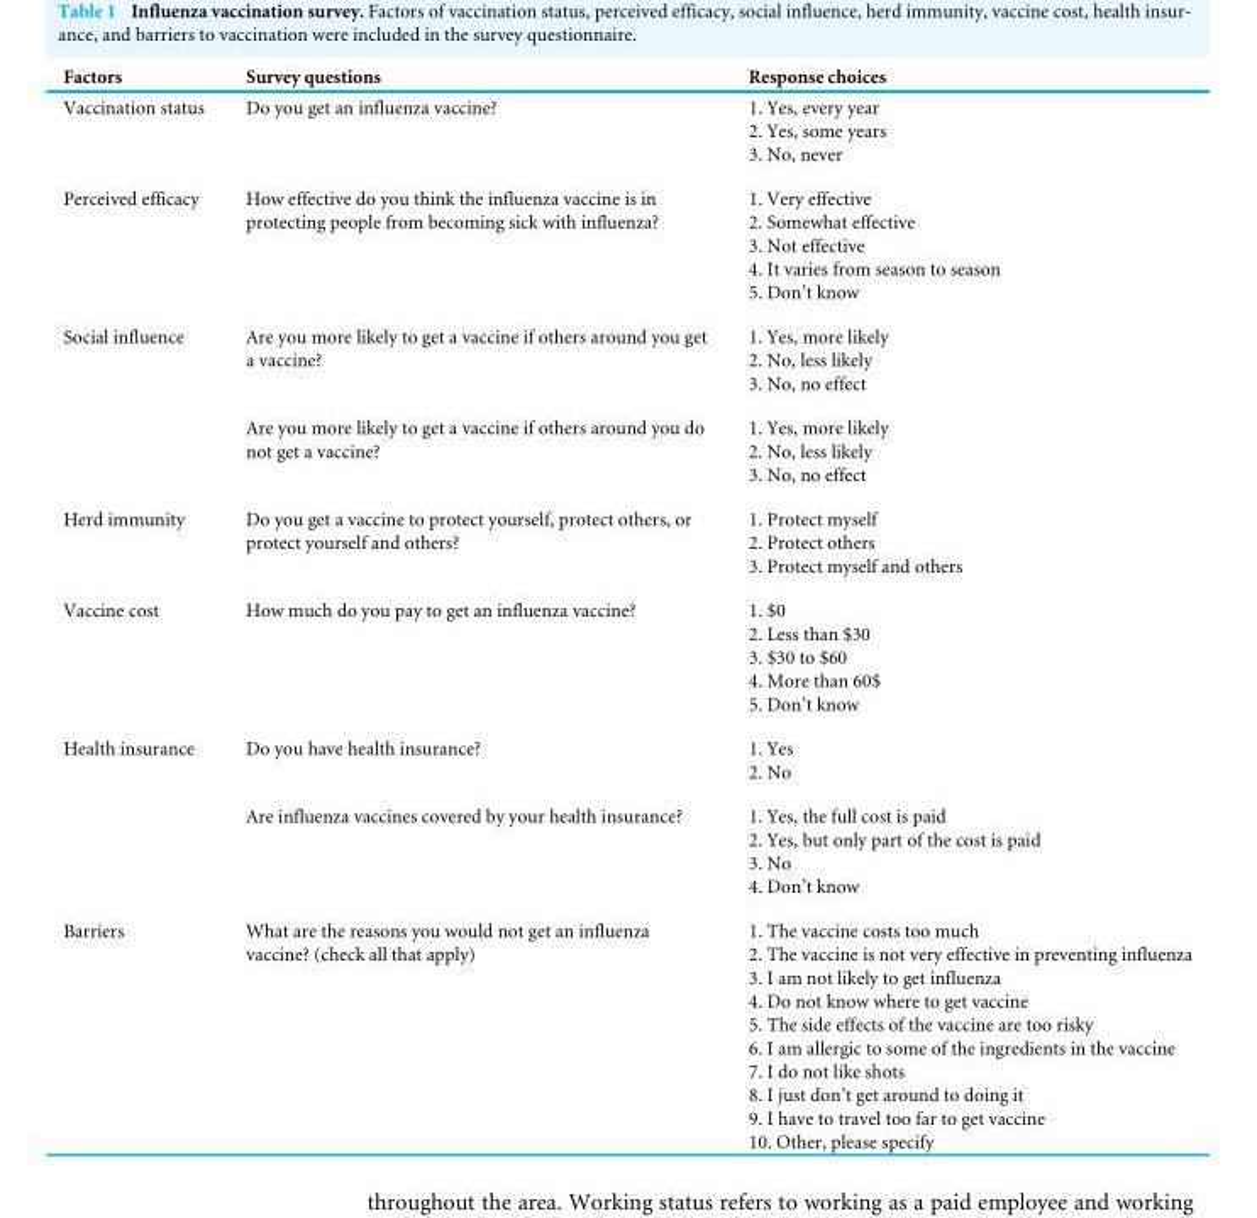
<table><thead><tr><td>Factors</td><td>Survey questions</td><td>Response choices</td></tr></thead><tbody><tr><td>Vaccination status</td><td>Do you get an influenza vaccine?</td><td>1. Yes, every year 2. Yes, some years 3. No, never</td></tr><tr><td>Perceived efficacy</td><td>How effective do you think the influenza vaccine is in protecting people from becoming sick with influenza?</td><td>1. Very effective 2. Somewhat effective 3. Not effective 4. It varies from season to season 5. Don’t know</td></tr><tr><td rowspan="2">Social influence</td><td>Are you more likely to get a vaccine if others around you get a vaccine?</td><td>1. Yes, more likely 2. No, less likely 3. No, no effect</td></tr><tr><td>Are you more likely to get a vaccine if others around you do not get a vaccine?</td><td>1. Yes, more likely 2. No, less likely 3. No, no effect</td></tr><tr><td>Herd immunity</td><td>Do you get a vaccine to protect yourself, protect others, or protect yourself and others?</td><td>1. Protect myself 2. Protect others 3. Protect myself and others</td></tr><tr><td>Vaccine cost</td><td>How much do you pay to get an influenza vaccine?</td><td>1. $0 2. Less than $30 3. $30 to $60 4. More than 60$ 5. Don’t know</td></tr><tr><td rowspan="2">Health insurance</td><td>Do you have health insurance?</td><td>1. Yes 2. No</td></tr><tr><td>Are influenza vaccines covered by your health insurance?</td><td>1. Yes, the full cost is paid 2. Yes, but only part of the cost is paid 3. No 4. Don’t know</td></tr><tr><td>Barriers</td><td>What are the reasons you would not get an influenza vaccine? (check all that apply)</td><td>1. The vaccine costs too much 2. The vaccine is not very effective in preventing influenza 3. I am not likely to get influenza 4. Do not know where to get vaccine 5. The side effects of the vaccine are too risky 6. I am allergic to some of the ingredients in the vaccine 7. I do not like shots 8. I just don’t get around to doing it 9. I have to travel too far to get vaccine 10. Other, please specify</td></tr></tbody></table>